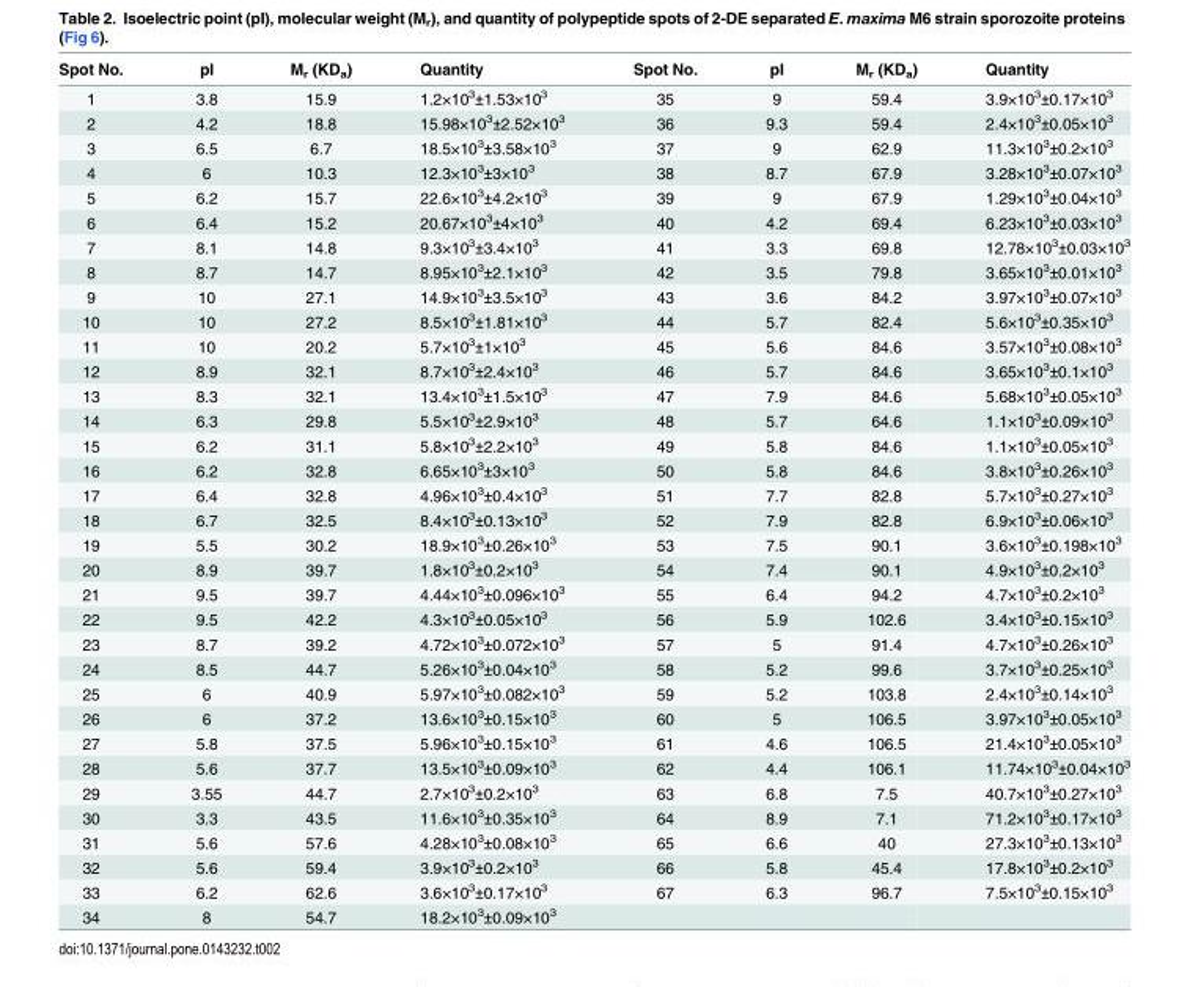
<table><thead><tr><td>Spot No.</td><td>pI</td><td>M<sub>r</sub> (KD<sub>a</sub>)</td><td>Quantity</td><td>Spot No.</td><td>pI</td><td>M<sub>r</sub> (KD<sub>a</sub>)</td><td>Quantity</td></tr></thead><tbody><tr><td>1</td><td>3.8</td><td>15.9</td><td>1.2×10<sup>3</sup>±1.53×10<sup>3</sup></td><td>35</td><td>9</td><td>59.4</td><td>3.9×10<sup>3</sup>±0.17×10<sup>3</sup></td></tr><tr><td>2</td><td>4.2</td><td>18.8</td><td>15.98×10<sup>3</sup>±2.52×10<sup>3</sup></td><td>36</td><td>9.3</td><td>59.4</td><td>2.4×10<sup>3</sup>±0.05×10<sup>3</sup></td></tr><tr><td>3</td><td>6.5</td><td>6.7</td><td>18.5×10<sup>3</sup>±3.58×10<sup>3</sup></td><td>37</td><td>9</td><td>62.9</td><td>11.3×10<sup>3</sup>±0.2×10<sup>3</sup></td></tr><tr><td>4</td><td>6</td><td>10.3</td><td>12.3×10<sup>3</sup>±3×10<sup>3</sup></td><td>38</td><td>8.7</td><td>67.9</td><td>3.28×10<sup>3</sup>±0.07×10<sup>3</sup></td></tr><tr><td>5</td><td>6.2</td><td>15.7</td><td>22.6×10<sup>3</sup>±4.2×10<sup>3</sup></td><td>39</td><td>9</td><td>67.9</td><td>1.29×10<sup>3</sup>±0.04×10<sup>3</sup></td></tr><tr><td>6</td><td>6.4</td><td>15.2</td><td>20.67×10<sup>3</sup>±4×10<sup>3</sup></td><td>40</td><td>4.2</td><td>69.4</td><td>6.23×10<sup>3</sup>±0.03×10<sup>3</sup></td></tr><tr><td>7</td><td>8.1</td><td>14.8</td><td>9.3×10<sup>3</sup>±3.4×10<sup>3</sup></td><td>41</td><td>3.3</td><td>69.8</td><td>12.78×10<sup>3</sup>±0.03×10<sup>3</sup></td></tr><tr><td>8</td><td>8.7</td><td>14.7</td><td>8.95×10<sup>3</sup>±2.1×10<sup>3</sup></td><td>42</td><td>3.5</td><td>79.8</td><td>3.65×10<sup>3</sup>±0.01×10<sup>3</sup></td></tr><tr><td>9</td><td>10</td><td>27.1</td><td>14.9×10<sup>3</sup>±3.5×10<sup>3</sup></td><td>43</td><td>3.6</td><td>84.2</td><td>3.97×10<sup>3</sup>±0.07×10<sup>3</sup></td></tr><tr><td>10</td><td>10</td><td>27.2</td><td>8.5×10<sup>3</sup>±1.81×10<sup>3</sup></td><td>44</td><td>5.7</td><td>82.4</td><td>5.6×10<sup>3</sup>±0.35×10<sup>3</sup></td></tr><tr><td>11</td><td>10</td><td>20.2</td><td>5.7×10<sup>3</sup>±1×10<sup>3</sup></td><td>45</td><td>5.6</td><td>84.6</td><td>3.57×10<sup>3</sup>±0.08×10<sup>3</sup></td></tr><tr><td>12</td><td>8.9</td><td>32.1</td><td>8.7×10<sup>3</sup>±2.4×10<sup>3</sup></td><td>46</td><td>5.7</td><td>84.6</td><td>3.65×10<sup>3</sup>±0.1×10<sup>3</sup></td></tr><tr><td>13</td><td>8.3</td><td>32.1</td><td>13.4×10<sup>3</sup>±1.5×10<sup>3</sup></td><td>47</td><td>7.9</td><td>84.6</td><td>5.68×10<sup>3</sup>±0.05×10<sup>3</sup></td></tr><tr><td>14</td><td>6.3</td><td>29.8</td><td>5.5×10<sup>3</sup>±2.9×10<sup>3</sup></td><td>48</td><td>5.7</td><td>64.6</td><td>1.1×10<sup>3</sup>±0.09×10<sup>3</sup></td></tr><tr><td>15</td><td>6.2</td><td>31.1</td><td>5.8×10<sup>3</sup>±2.2×10<sup>3</sup></td><td>49</td><td>5.8</td><td>84.6</td><td>1.1×10<sup>3</sup>±0.05×10<sup>3</sup></td></tr><tr><td>16</td><td>6.2</td><td>32.8</td><td>6.65×10<sup>3</sup>±3×10<sup>3</sup></td><td>50</td><td>5.8</td><td>84.6</td><td>3.8×10<sup>3</sup>±0.26×10<sup>3</sup></td></tr><tr><td>17</td><td>6.4</td><td>32.8</td><td>4.96×10<sup>3</sup>±0.4×10<sup>3</sup></td><td>51</td><td>7.7</td><td>82.8</td><td>5.7×10<sup>3</sup>±0.27×10<sup>3</sup></td></tr><tr><td>18</td><td>6.7</td><td>32.5</td><td>8.4×10<sup>3</sup>±0.13×10<sup>3</sup></td><td>52</td><td>7.9</td><td>82.8</td><td>6.9×10<sup>3</sup>±0.06×10<sup>3</sup></td></tr><tr><td>19</td><td>5.5</td><td>30.2</td><td>18.9×10<sup>3</sup>±0.26×10<sup>3</sup></td><td>53</td><td>7.5</td><td>90.1</td><td>3.6×10<sup>3</sup>±0.198×10<sup>3</sup></td></tr><tr><td>20</td><td>8.9</td><td>39.7</td><td>1.8×10<sup>3</sup>±0.2×10<sup>3</sup></td><td>54</td><td>7.4</td><td>90.1</td><td>4.9×10<sup>3</sup>±0.2×10<sup>3</sup></td></tr><tr><td>21</td><td>9.5</td><td>39.7</td><td>4.44×10<sup>3</sup>±0.096×10<sup>3</sup></td><td>55</td><td>6.4</td><td>94.2</td><td>4.7×10<sup>3</sup>±0.2×10<sup>3</sup></td></tr><tr><td>22</td><td>9.5</td><td>42.2</td><td>4.3×10<sup>3</sup>±0.05×10<sup>3</sup></td><td>56</td><td>5.9</td><td>102.6</td><td>3.4×10<sup>3</sup>±0.15×10<sup>3</sup></td></tr><tr><td>23</td><td>8.7</td><td>39.2</td><td>4.72×10<sup>3</sup>±0.072×10<sup>3</sup></td><td>57</td><td>5</td><td>91.4</td><td>4.7×10<sup>3</sup>±0.26×10<sup>3</sup></td></tr><tr><td>24</td><td>8.5</td><td>44.7</td><td>5.26×10<sup>3</sup>±0.04×10<sup>3</sup></td><td>58</td><td>5.2</td><td>99.6</td><td>3.7×10<sup>3</sup>±0.25×10<sup>3</sup></td></tr><tr><td>25</td><td>6</td><td>40.9</td><td>5.97×10<sup>3</sup>±0.082×10<sup>3</sup></td><td>59</td><td>5.2</td><td>103.8</td><td>2.4×10<sup>3</sup>±0.14×10<sup>3</sup></td></tr><tr><td>26</td><td>6</td><td>37.2</td><td>13.6×10<sup>3</sup>±0.15×10<sup>3</sup></td><td>60</td><td>5</td><td>106.5</td><td>3.97×10<sup>3</sup>±0.05×10<sup>3</sup></td></tr><tr><td>27</td><td>5.8</td><td>37.5</td><td>5.96×10<sup>3</sup>±0.15×10<sup>3</sup></td><td>61</td><td>4.6</td><td>106.5</td><td>21.4×10<sup>3</sup>±0.05×10<sup>3</sup></td></tr><tr><td>28</td><td>5.6</td><td>37.7</td><td>13.5×10<sup>3</sup>±0.09×10<sup>3</sup></td><td>62</td><td>4.4</td><td>106.1</td><td>11.74×10<sup>3</sup>±0.04×10<sup>3</sup></td></tr><tr><td>29</td><td>3.55</td><td>44.7</td><td>2.7×10<sup>3</sup>±0.2×10<sup>3</sup></td><td>63</td><td>6.8</td><td>7.5</td><td>40.7×10<sup>3</sup>±0.27×10<sup>3</sup></td></tr><tr><td>30</td><td>3.3</td><td>43.5</td><td>11.6×10<sup>3</sup>±0.35×10<sup>3</sup></td><td>64</td><td>8.9</td><td>7.1</td><td>71.2×10<sup>3</sup>±0.17×10<sup>3</sup></td></tr><tr><td>31</td><td>5.6</td><td>57.6</td><td>4.28×10<sup>3</sup>±0.08×10<sup>3</sup></td><td>65</td><td>6.6</td><td>40</td><td>27.3×10<sup>3</sup>±0.13×10<sup>3</sup></td></tr><tr><td>32</td><td>5.6</td><td>59.4</td><td>3.9×10<sup>3</sup>±0.2×10<sup>3</sup></td><td>66</td><td>5.8</td><td>45.4</td><td>17.8×10<sup>3</sup>±0.2×10<sup>3</sup></td></tr><tr><td>33</td><td>6.2</td><td>62.6</td><td>3.6×10<sup>3</sup>±0.17×10<sup>3</sup></td><td>67</td><td>6.3</td><td>96.7</td><td>7.5×10<sup>3</sup>±0.15×10<sup>3</sup></td></tr><tr><td>34</td><td>8</td><td>54.7</td><td>18.2×10<sup>3</sup>±0.09×10<sup>3</sup></td><td></td><td></td><td></td><td></td></tr></tbody></table>